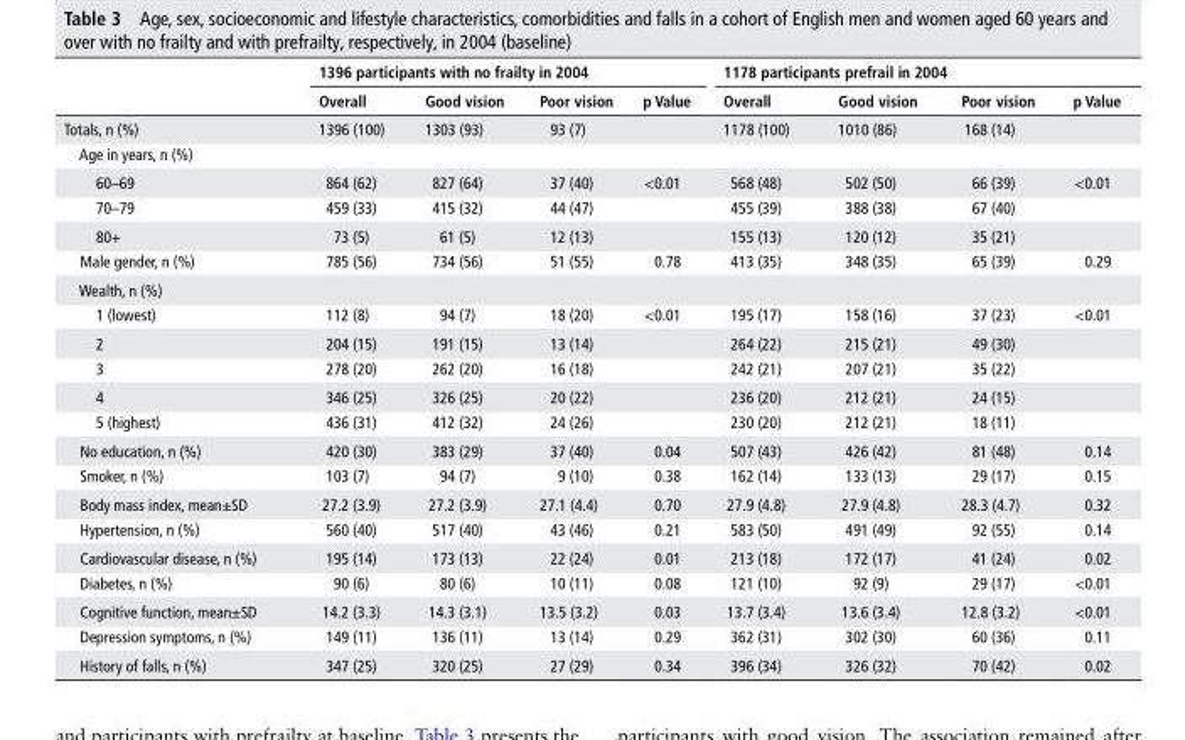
<table><thead><tr><td rowspan="2"></td><td colspan="4">1396 participants with no frailty in 2004</td><td colspan="4">1178 participants prefrail in 2004</td></tr><tr><td>overall</td><td>Good vision</td><td>Poor vision</td><td>p Value</td><td>overall</td><td>Good vision</td><td>Poor vision</td><td>p Value</td></tr></thead><tbody><tr><td>Totals, n (%)</td><td>1396 (100)</td><td>1303 (93)</td><td>93 (7)</td><td></td><td>1178 (100)</td><td>1010 (86)</td><td>168 (14)</td><td></td></tr><tr><td colspan="9">Age in years, n (%)</td></tr><tr><td>60–69</td><td>864 (62)</td><td>827 (64)</td><td>37 (40)</td><td>&lt;0.01</td><td>568 (48)</td><td>502 (50)</td><td>66 (39)</td><td>&lt;0.01</td></tr><tr><td>70–79</td><td>459 (33)</td><td>415 (32)</td><td>44 (47)</td><td></td><td>455 (39)</td><td>388 (38)</td><td>67 (40)</td><td></td></tr><tr><td>80+</td><td>73 (5)</td><td>61 (5)</td><td>12 (13)</td><td></td><td>155 (13)</td><td>120 (12)</td><td>35 (21)</td><td></td></tr><tr><td>Male gender, n (%)</td><td>785 (56)</td><td>734 (56)</td><td>51 (55)</td><td>0.78</td><td>413 (35)</td><td>348 (35)</td><td>65 (39)</td><td>0.29</td></tr><tr><td colspan="9">Wealth, n (%)</td></tr><tr><td>1 (lowest)</td><td>112 (8)</td><td>94 (7)</td><td>18 (20)</td><td>&lt;0.01</td><td>195 (17)</td><td>158 (16)</td><td>37 (23)</td><td>&lt;0.01</td></tr><tr><td>2</td><td>204 (15)</td><td>191 (15)</td><td>13 (14)</td><td></td><td>264 (22)</td><td>215 (21)</td><td>49 (30)</td><td></td></tr><tr><td>3</td><td>278 (20)</td><td>262 (20)</td><td>16 (18)</td><td></td><td>242 (21)</td><td>207 (21)</td><td>35 (22)</td><td></td></tr><tr><td>4</td><td>346 (25)</td><td>326 (25)</td><td>20 (22)</td><td></td><td>236 (20)</td><td>212 (21)</td><td>24 (15)</td><td></td></tr><tr><td>5 (highest)</td><td>436 (31)</td><td>412 (32)</td><td>24 (26)</td><td></td><td>230 (20)</td><td>212 (21)</td><td>18 (11)</td><td></td></tr><tr><td>No education, n (%)</td><td>420 (30)</td><td>383 (29)</td><td>37 (40)</td><td>0.04</td><td>507 (43)</td><td>426 (42)</td><td>81 (48)</td><td>0.14</td></tr><tr><td>Smoker, n (%)</td><td>103 (7)</td><td>94 (7)</td><td>9 (10)</td><td>0.38</td><td>162 (14)</td><td>133 (13)</td><td>29 (17)</td><td>0.15</td></tr><tr><td>Body mass index, mean±SD</td><td>27.2 (3.9)</td><td>27.2 (3.9)</td><td>27.1 (4.4)</td><td>0.70</td><td>27.9 (4.8)</td><td>27.9 (4.8)</td><td>28.3 (4.7)</td><td>0.32</td></tr><tr><td>Hypertension, n (%)</td><td>560 (40)</td><td>517 (40)</td><td>43 (46)</td><td>0.21</td><td>583 (50)</td><td>491 (49)</td><td>92 (55)</td><td>0.14</td></tr><tr><td>Cardiovascular disease, n (%)</td><td>195 (14)</td><td>173 (13)</td><td>22 (24)</td><td>0.01</td><td>213 (18)</td><td>172 (17)</td><td>41 (24)</td><td>0.02</td></tr><tr><td>Diabetes, n (%)</td><td>90 (6)</td><td>80 (6)</td><td>10 (11)</td><td>0.08</td><td>121 (10)</td><td>92 (9)</td><td>29 (17)</td><td>&lt;0.01</td></tr><tr><td>Cognitive function, mean±SD</td><td>14.2 (3.3)</td><td>14.3 (3.1)</td><td>13.5 (3.2)</td><td>0.03</td><td>13.7 (3.4)</td><td>13.6 (3.4)</td><td>12.8 (3.2)</td><td>&lt;0.01</td></tr><tr><td>Depression symptoms, n (%)</td><td>149 (11)</td><td>136 (11)</td><td>13 (14)</td><td>0.29</td><td>362 (31)</td><td>302 (30)</td><td>60 (36)</td><td>0.11</td></tr><tr><td>History of falls, n (%)</td><td>347 (25)</td><td>320 (25)</td><td>27 (29)</td><td>0.34</td><td>396 (34)</td><td>326 (32)</td><td>70 (42)</td><td>0.02</td></tr></tbody></table>